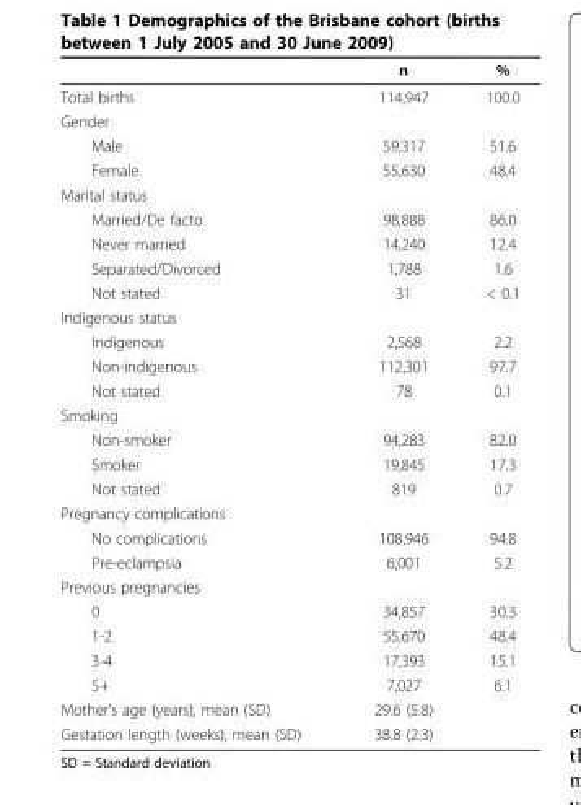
<table><thead><tr><td></td><td>n</td><td>%</td></tr></thead><tbody><tr><td>Total births</td><td>114,947</td><td>100.0</td></tr><tr><td colspan="3">Gender</td></tr><tr><td>Male</td><td>59,317</td><td>51.6</td></tr><tr><td>Female</td><td>55,630</td><td>48.4</td></tr><tr><td colspan="3">Marital status</td></tr><tr><td>Married/De facto</td><td>98,888</td><td>86.0</td></tr><tr><td>Never married</td><td>14,240</td><td>12.4</td></tr><tr><td>Separated/Divorced</td><td>1,788</td><td>1.6</td></tr><tr><td>Not stated</td><td>31</td><td>&lt; 0.1</td></tr><tr><td colspan="3">Indigenous status</td></tr><tr><td>Indigenous</td><td>2,568</td><td>2.2</td></tr><tr><td>Non-indigenous</td><td>112,301</td><td>97.7</td></tr><tr><td>Not stated</td><td>78</td><td>0.1</td></tr><tr><td colspan="3">Smoking</td></tr><tr><td>Non-smoker</td><td>94,283</td><td>82.0</td></tr><tr><td>Smoker</td><td>19,845</td><td>17.3</td></tr><tr><td>Not stated</td><td>819</td><td>0.7</td></tr><tr><td colspan="3">Pregnancy complications</td></tr><tr><td>No complications</td><td>108,946</td><td>94.8</td></tr><tr><td>Pre-eclampsia</td><td>6,001</td><td>5.2</td></tr><tr><td colspan="3">Previous pregnancies</td></tr><tr><td>0</td><td>34,857</td><td>30.3</td></tr><tr><td>1-2</td><td>55,670</td><td>48.4</td></tr><tr><td>3-4</td><td>17,393</td><td>15.1</td></tr><tr><td>5+</td><td>7,027</td><td>6.1</td></tr><tr><td>Mother’s age (years), mean (SD)</td><td>29.6 (5.8)</td><td></td></tr><tr><td>Gestation length (weeks), mean (SD)</td><td>38.8 (2.3)</td><td></td></tr></tbody></table>